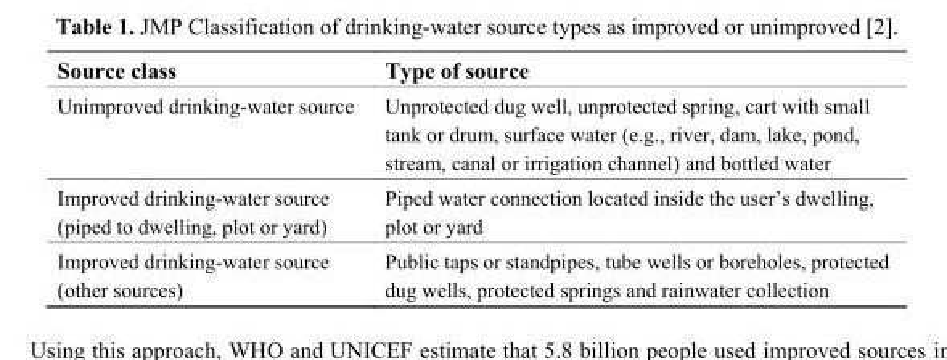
<table><thead><tr><td>Source class</td><td>Type of source</td></tr></thead><tbody><tr><td>Unimproved drinking-water source</td><td>Unprotected dug well, unprotected spring, cart with small tank or drum, surface water (e.g., river, dam, lake, pond, stream, canal or irrigation channel) and bottled water</td></tr><tr><td>Improved drinking-water source (piped to dwelling, plot or yard)</td><td>Piped water connection located inside the user’s dwelling, plot or yard</td></tr><tr><td>Improved drinking-water source (other sources)</td><td>Public taps or standpipes, tube wells or boreholes, protected dug wells, protected springs and rainwater collection</td></tr></tbody></table>